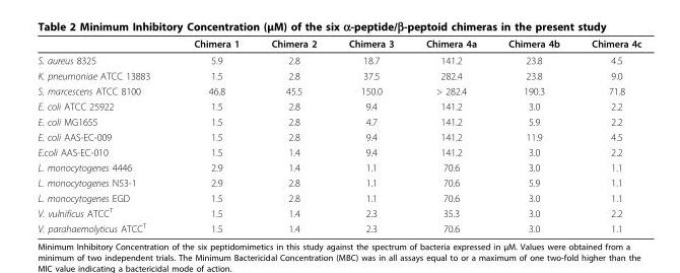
<table><thead><tr><td></td><td>Chimera 1</td><td>Chimera 2</td><td>Chimera 3</td><td>Chimera 4a</td><td>Chimera 4b</td><td>Chimera 4c</td></tr></thead><tbody><tr><td>S. aureus 8325</td><td>5.9</td><td>2.8</td><td>18.7</td><td>141.2</td><td>23.8</td><td>4.5</td></tr><tr><td>K. pneumoniae ATCC 13883</td><td>1.5</td><td>2.8</td><td>37.5</td><td>282.4</td><td>23.8</td><td>9.0</td></tr><tr><td>S. marcescens ATCC 8100</td><td>46.8</td><td>45.5</td><td>150.0</td><td>&gt; 282.4</td><td>190.3</td><td>71.8</td></tr><tr><td>E. coli ATCC 25922</td><td>1.5</td><td>2.8</td><td>9.4</td><td>141.2</td><td>3.0</td><td>2.2</td></tr><tr><td>E. coli MG1655</td><td>1.5</td><td>2.8</td><td>4.7</td><td>141.2</td><td>5.9</td><td>2.2</td></tr><tr><td>E. coli AAS-EC-009</td><td>1.5</td><td>2.8</td><td>9.4</td><td>141.2</td><td>11.9</td><td>4.5</td></tr><tr><td>E.coli AAS-EC-010</td><td>1.5</td><td>1.4</td><td>9.4</td><td>141.2</td><td>3.0</td><td>2.2</td></tr><tr><td>L. monocytogenes 4446</td><td>2.9</td><td>1.4</td><td>1.1</td><td>70.6</td><td>3.0</td><td>1.1</td></tr><tr><td>L. monocytogenes N53-1</td><td>2.9</td><td>2.8</td><td>1.1</td><td>70.6</td><td>5.9</td><td>1.1</td></tr><tr><td>L. monocytogenes EGD</td><td>1.5</td><td>2.8</td><td>1.1</td><td>70.6</td><td>3.0</td><td>1.1</td></tr><tr><td>V. vulnificus ATCC<sup>T</sup></td><td>1.5</td><td>1.4</td><td>2.3</td><td>35.3</td><td>3.0</td><td>2.2</td></tr><tr><td>V. parahaemolyticus ATCC<sup>T</sup></td><td>1.5</td><td>1.4</td><td>2.3</td><td>70.6</td><td>3.0</td><td>1.1</td></tr></tbody></table>